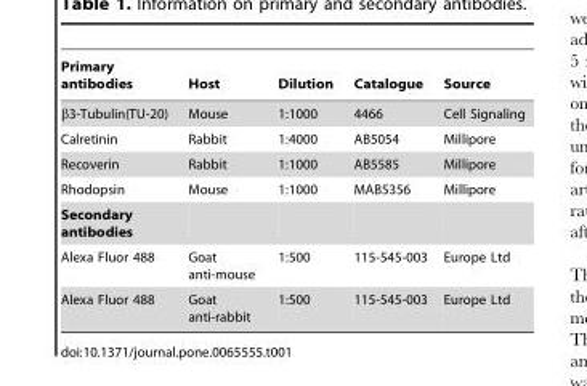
<table><thead><tr><td>Primary antibodies</td><td>Host</td><td>Dilution</td><td>Catalogue</td><td>Source</td></tr></thead><tbody><tr><td>β3-Tubulin(TU-20)</td><td>Mouse</td><td>1:1000</td><td>4466</td><td>Cell Signaling</td></tr><tr><td>Calretinin</td><td>Rabbit</td><td>1:4000</td><td>AB5054</td><td>Millipore</td></tr><tr><td>Recoverin</td><td>Rabbit</td><td>1:1000</td><td>AB5585</td><td>Millipore</td></tr><tr><td>Rhodopsin</td><td>Mouse</td><td>1:1000</td><td>MAB5356</td><td>Millipore</td></tr><tr><td colspan="5">Secondary antibodies</td></tr><tr><td>Alexa Fluor 488</td><td>Goat anti-mouse</td><td>1:500</td><td>115-545-003</td><td>Europe Ltd</td></tr><tr><td>Alexa Fluor 488</td><td>Goat anti-rabbit</td><td>1:500</td><td>115-545-003</td><td>Europe Ltd</td></tr></tbody></table>